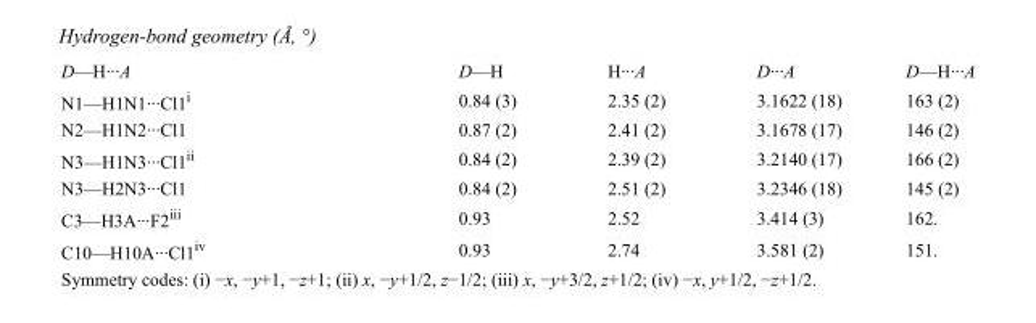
<table><tbody><tr><td>D—H···A</td><td>D—H</td><td>H···A</td><td>D···A</td><td>D—H···A</td></tr><tr><td>N1—H1N1···Cl1<sup>i</sup></td><td>0.84 (3)</td><td>2.35 (2)</td><td>3.1622 (18)</td><td>163 (2)</td></tr><tr><td>N2—H1N2···Cl1</td><td>0.87 (2)</td><td>2.41 (2)</td><td>3.1678 (17)</td><td>146 (2)</td></tr><tr><td>N3—H1N3···Cl1<sup>ii</sup></td><td>0.84 (2)</td><td>2.39 (2)</td><td>3.2140 (17)</td><td>166 (2)</td></tr><tr><td>N3—H2N3···Cl1</td><td>0.84 (2)</td><td>2.51 (2)</td><td>3.2346 (18)</td><td>145 (2)</td></tr><tr><td>C3—H3A···F2<sup>iii</sup></td><td>0.93</td><td>2.52</td><td>3.414 (3)</td><td>162.</td></tr><tr><td>C10—H10A···Cl1<sup>iv</sup></td><td>0.93</td><td>2.74</td><td>3.581 (2)</td><td>151.</td></tr></tbody></table>